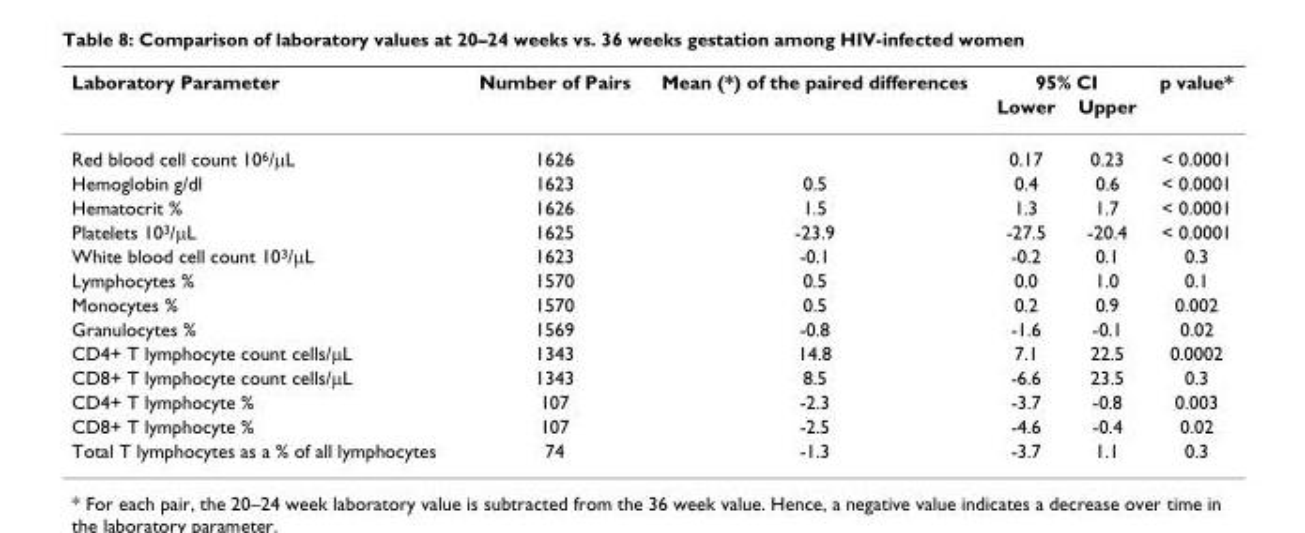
<table><thead><tr><td rowspan="2">Laboratory Parameter</td><td rowspan="2">Number of Pairs</td><td rowspan="2">Mean (*) of the paired differences</td><td colspan="2">95% CI</td><td rowspan="2">p value*</td></tr><tr><td>Lower</td><td>Upper</td></tr></thead><tbody><tr><td>Red blood cell count 10<sup>6</sup>/μL</td><td>1626</td><td></td><td>0.17</td><td>0.23</td><td>&lt; 0.0001</td></tr><tr><td>Hemoglobin g/dl</td><td>1623</td><td>0.5</td><td>0.4</td><td>0.6</td><td>&lt; 0.0001</td></tr><tr><td>Hematocrit %</td><td>1626</td><td>1.5</td><td>1.3</td><td>1.7</td><td>&lt; 0.0001</td></tr><tr><td>Platelets 10<sup>3</sup>/μL</td><td>1625</td><td>-23.9</td><td>-27.5</td><td>-20.4</td><td>&lt; 0.0001</td></tr><tr><td>White blood cell count 10<sup>3</sup>/μL</td><td>1623</td><td>-0.1</td><td>-0.2</td><td>0.1</td><td>0.3</td></tr><tr><td>Lymphocytes %</td><td>1570</td><td>0.5</td><td>0.0</td><td>1.0</td><td>0.1</td></tr><tr><td>Monocytes %</td><td>1570</td><td>0.5</td><td>0.2</td><td>0.9</td><td>0.002</td></tr><tr><td>Granulocytes %</td><td>1569</td><td>-0.8</td><td>-1.6</td><td>-0.1</td><td>0.02</td></tr><tr><td>CD4+ T lymphocyte count cells/μL</td><td>1343</td><td>14.8</td><td>7.1</td><td>22.5</td><td>0.0002</td></tr><tr><td>CD8+ T lymphocyte count cells/μL</td><td>1343</td><td>8.5</td><td>-6.6</td><td>23.5</td><td>0.3</td></tr><tr><td>CD4+ T lymphocyte %</td><td>107</td><td>-2.3</td><td>-3.7</td><td>-0.8</td><td>0.003</td></tr><tr><td>CD8+ T lymphocyte %</td><td>107</td><td>-2.5</td><td>-4.6</td><td>-0.4</td><td>0.02</td></tr><tr><td>Total T lymphocytes as a % of all lymphocytes</td><td>74</td><td>-1.3</td><td>-3.7</td><td>1.1</td><td>0.3</td></tr></tbody></table>